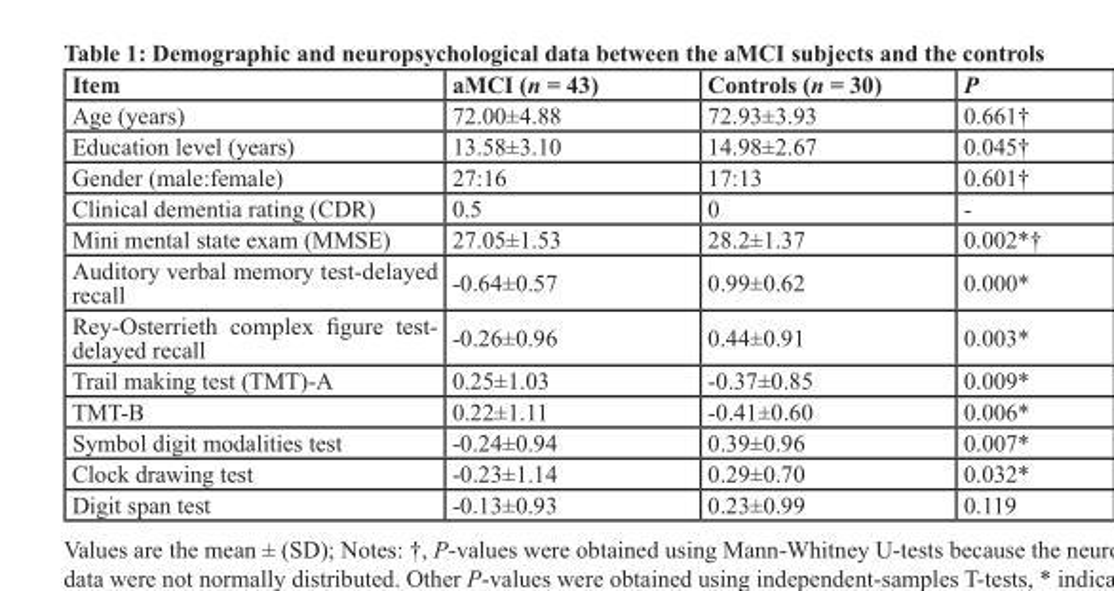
<table><thead><tr><td>Item</td><td>aMCI (n = 43)</td><td>Controls (n = 30)</td><td>P</td></tr></thead><tbody><tr><td>Age (years)</td><td>72.00±4.88</td><td>72.93±3.93</td><td>0.661†</td></tr><tr><td>Education level (years)</td><td>13.58±3.10</td><td>14.98±2.67</td><td>0.045†</td></tr><tr><td>Gender (male:female)</td><td>27:16</td><td>17:13</td><td>0.601†</td></tr><tr><td>Clinical dementia rating (CDR)</td><td>0.5</td><td>0</td><td>-</td></tr><tr><td>Mini mental state exam (MMSE)</td><td>27.05±1.53</td><td>28.2±1.37</td><td>0.002*†</td></tr><tr><td>Auditory verbal memory test-delayed recall</td><td>-0.64±0.57</td><td>0.99±0.62</td><td>0.000*</td></tr><tr><td>Rey-Osterrieth complex figure test- delayed recall</td><td>-0.26±0.96</td><td>0.44±0.91</td><td>0.003*</td></tr><tr><td>Trail making test (TMT)-A</td><td>0.25±1.03</td><td>-0.37±0.85</td><td>0.009*</td></tr><tr><td>TMT-B</td><td>0.22±1.11</td><td>-0.41±0.60</td><td>0.006*</td></tr><tr><td>Symbol digit modalities test</td><td>-0.24±0.94</td><td>0.39±0.96</td><td>0.007*</td></tr><tr><td>Clock drawing test</td><td>-0.23±1.14</td><td>0.29±0.70</td><td>0.032*</td></tr><tr><td>Digit span test</td><td>-0.13±0.93</td><td>0.23±0.99</td><td>0.119</td></tr></tbody></table>